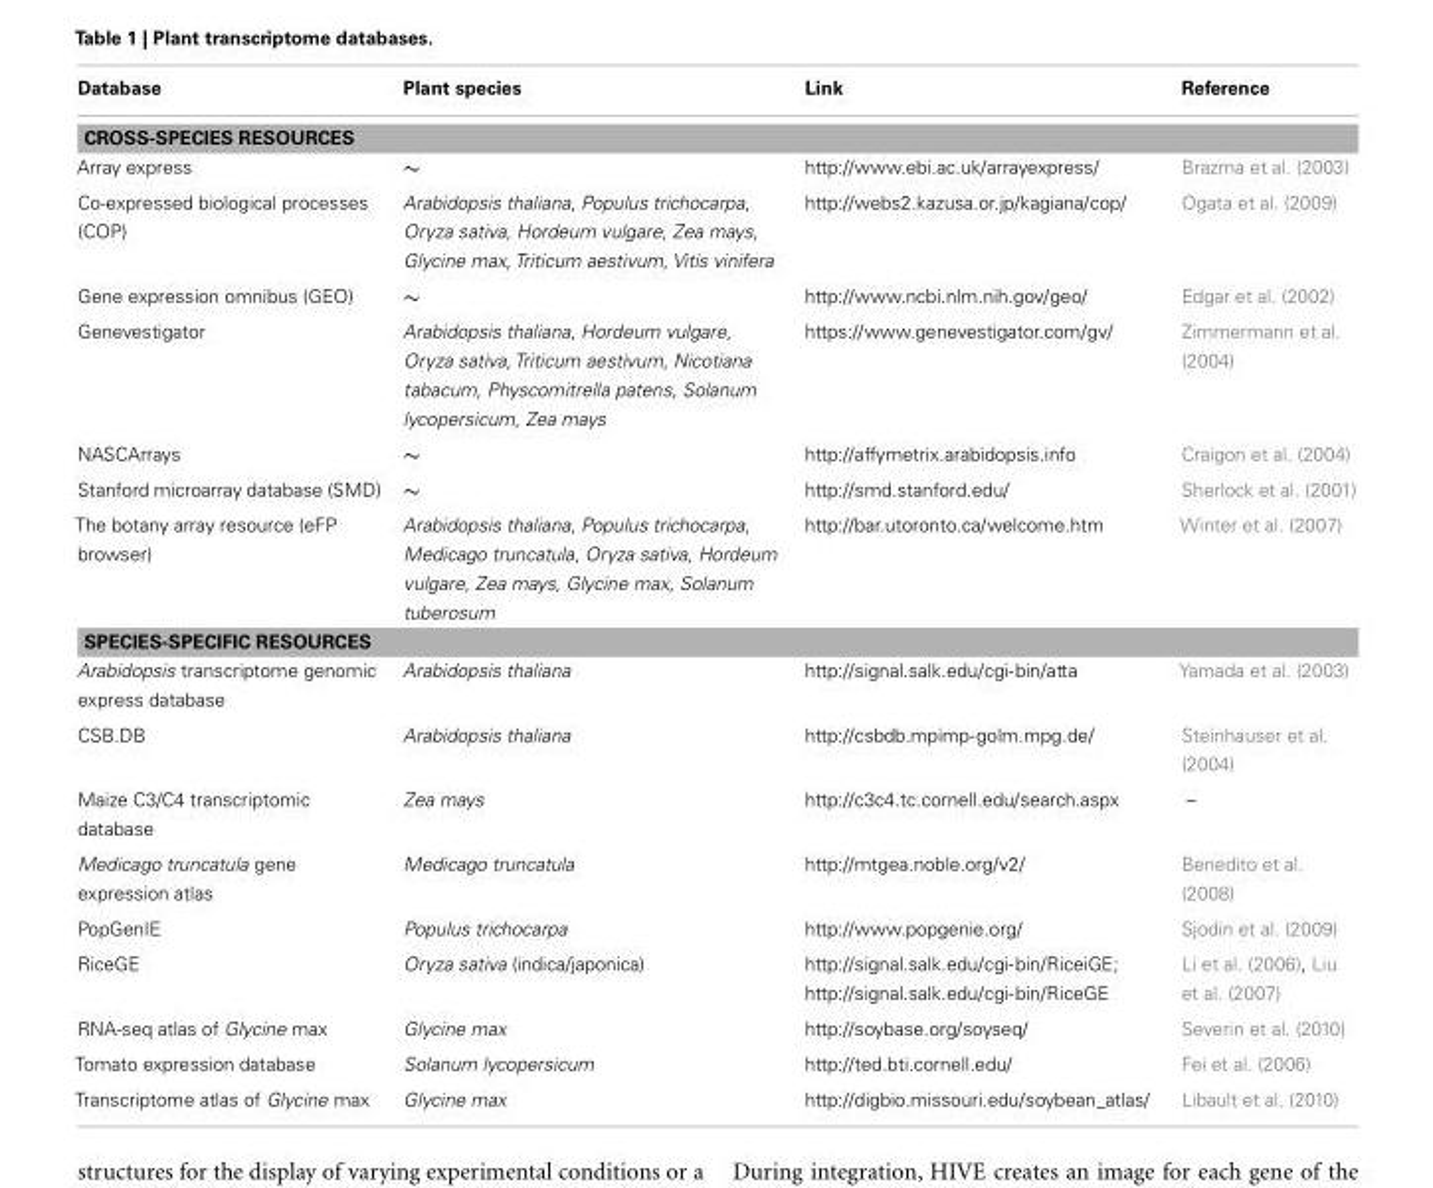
<table><thead><tr><td>Database</td><td>Plant species</td><td>Link</td><td>Reference</td></tr></thead><tbody><tr><td colspan="4">CROSS-SPECIES RESOURCES</td></tr><tr><td>Array express</td><td>∼</td><td>http://www.ebi.ac.uk/arrayexpress/</td><td>Brazma et al. (2003)</td></tr><tr><td>Co-expressed biological processes (COP)</td><td>Arabidopsis thaliana, Populus trichocarpa, Oryza sativa, Hordeum vulgare, Zea mays, Glycine max, Triticum aestivum, Vitis vinifera</td><td>http://webs2.kazusa.or.jp/kagiana/cop/</td><td>Ogata et al. (2009)</td></tr><tr><td>Gene expression omnibus (GEO)</td><td>∼</td><td>http://www.ncbi.nlm.nih.gov/geo/</td><td>Edgar et al. (2002)</td></tr><tr><td>Genevestigator</td><td>Arabidopsis thaliana, Hordeum vulgare, Oryza sativa, Triticum aestivum, Nicotiana tabacum, Physcomitrella patens, Solanum lycopersicum, Zea mays</td><td>https://www.genevestigator.com/gv/</td><td>Zimmermann et al. (2004)</td></tr><tr><td>NASCArrays</td><td>∼</td><td>http://affymetrix.arabidopsis.info</td><td>Craigon et al. (2004)</td></tr><tr><td>Stanford microarray database (SMD)</td><td>∼</td><td>http://smd.stanford.edu/</td><td>Sherlock et al. (2001)</td></tr><tr><td>The botany array resource (eFP browser)</td><td>Arabidopsis thaliana, Populus trichocarpa, Medicago truncatula, Oryza sativa, Hordeum vulgare, Zea mays, Glycine max, Solanum tuberosum</td><td>http://bar.utoronto.ca/welcome.htm</td><td>Winter et al. (2007)</td></tr><tr><td colspan="4">SPECIES-SPECIFIC RESOURCES</td></tr><tr><td>Arabidopsis transcriptome genomic express database</td><td>Arabidopsis thaliana</td><td>http://signal.salk.edu/cgi-bin/atta</td><td>Yamada et al. (2003)</td></tr><tr><td>CSB.DB</td><td>Arabidopsis thaliana</td><td>http://csbdb.mpimp-golm.mpg.de/</td><td>Steinhauser et al. (2004)</td></tr><tr><td>Maize C3/C4 transcriptomic database</td><td>Zea mays</td><td>http://c3c4.tc.cornell.edu/search.aspx</td><td>–</td></tr><tr><td>Medicago truncatula gene expression atlas</td><td>Medicago truncatula</td><td>http://mtgea.noble.org/v2/</td><td>Benedito et al. (2008)</td></tr><tr><td>PopGenIE</td><td>Populus trichocarpa</td><td>http://www.popgenie.org/</td><td>Sjodin et al. (2009)</td></tr><tr><td>RiceGE</td><td>Oryza sativa (indica/japonica)</td><td>http://signal.salk.edu/cgi-bin/RiceiGE; http://signal.salk.edu/cgi-bin/RiceGE</td><td>Li et al. (2006), Liu et al. (2007)</td></tr><tr><td>RNA-seq atlas of Glycine max</td><td>Glycine max</td><td>http://soybase.org/soyseq/</td><td>Severin et al. (2010)</td></tr><tr><td>Tomato expression database</td><td>Solanum lycopersicum</td><td>http://ted.bti.cornell.edu/</td><td>Fei et al. (2006)</td></tr><tr><td>Transcriptome atlas of Glycine max</td><td>Glycine max</td><td>http://digbio.missouri.edu/soybean_atlas/</td><td>Libault et al. (2010)</td></tr></tbody></table>